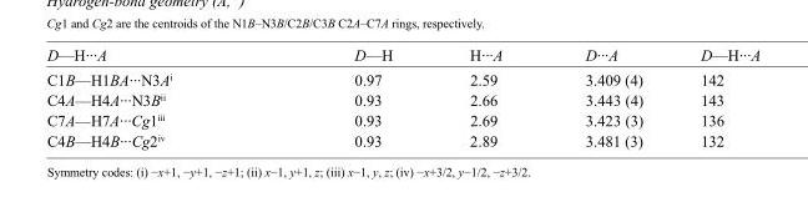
<table><tbody><tr><td>D—H···A</td><td>D—H</td><td>H···A</td><td>D···A</td><td>D—H···A</td></tr><tr><td>C1B—H1BA···N3A<sup>i</sup></td><td>0.97</td><td>2.59</td><td>3.409 (4)</td><td>142</td></tr><tr><td>C4A—H4A···N3B<sup>ii</sup></td><td>0.93</td><td>2.66</td><td>3.443 (4)</td><td>143</td></tr><tr><td>C7A—H7A···Cg1<sup>iii</sup></td><td>0.93</td><td>2.69</td><td>3.423 (3)</td><td>136</td></tr><tr><td>C4B—H4B···Cg2<sup>iv</sup></td><td>0.93</td><td>2.89</td><td>3.481 (3)</td><td>132</td></tr></tbody></table>